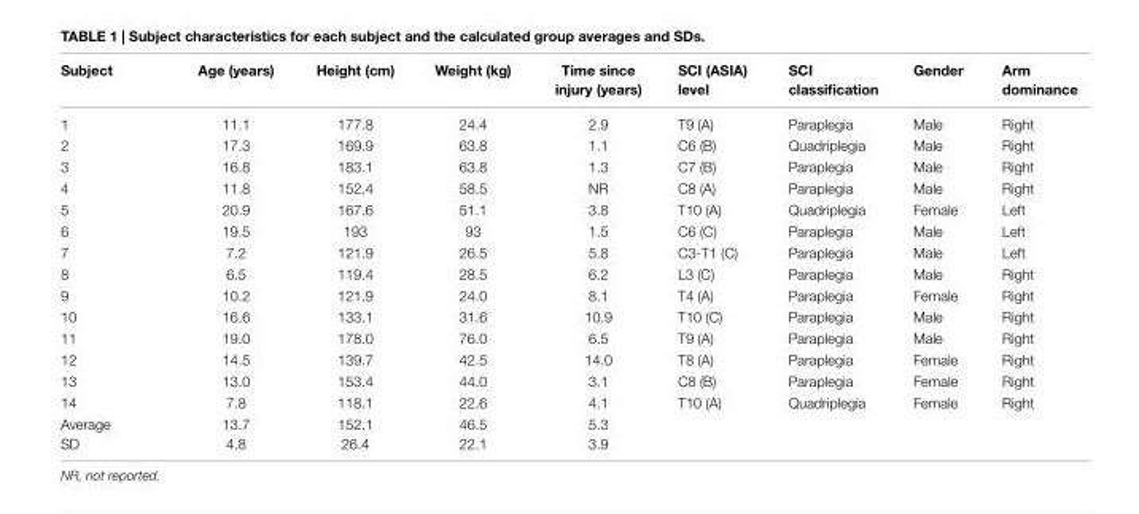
<table><thead><tr><td>subject</td><td>age (years)</td><td>height (cm)</td><td>Weight (kg)</td><td>Time since injury (years)</td><td>sci (asia) level</td><td>sci classification</td><td>gender</td><td>arm dominance</td></tr></thead><tbody><tr><td>1</td><td>11.1</td><td>177.8</td><td>24.4</td><td>2.9</td><td>T9 (A)</td><td>Paraplegia</td><td>Male</td><td>Right</td></tr><tr><td>2</td><td>17.3</td><td>169.9</td><td>63.8</td><td>1.1</td><td>C6 (B)</td><td>Quadriplegia</td><td>Male</td><td>Right</td></tr><tr><td>3</td><td>16.8</td><td>183.1</td><td>63.8</td><td>1.3</td><td>C7 (B)</td><td>Paraplegia</td><td>Male</td><td>Right</td></tr><tr><td>4</td><td>11.8</td><td>152.4</td><td>58.5</td><td>NR</td><td>C8 (A)</td><td>Paraplegia</td><td>Male</td><td>Right</td></tr><tr><td>5</td><td>20.9</td><td>167.6</td><td>51.1</td><td>3.8</td><td>T10 (A)</td><td>Quadriplegia</td><td>Female</td><td>Left</td></tr><tr><td>6</td><td>19.5</td><td>193</td><td>93</td><td>1.5</td><td>C6 (C)</td><td>Paraplegia</td><td>Male</td><td>Left</td></tr><tr><td>7</td><td>7.2</td><td>121.9</td><td>26.5</td><td>5.8</td><td>C3-T1 (C)</td><td>Paraplegia</td><td>Male</td><td>Left</td></tr><tr><td>8</td><td>6.5</td><td>119.4</td><td>28.5</td><td>6.2</td><td>L3 (C)</td><td>Paraplegia</td><td>Male</td><td>Right</td></tr><tr><td>9</td><td>10.2</td><td>121.9</td><td>24.0</td><td>8.1</td><td>T4 (A)</td><td>Paraplegia</td><td>Female</td><td>Right</td></tr><tr><td>10</td><td>16.6</td><td>133.1</td><td>31.6</td><td>10.9</td><td>T10 (C)</td><td>Paraplegia</td><td>Male</td><td>Right</td></tr><tr><td>11</td><td>19.0</td><td>178.0</td><td>76.0</td><td>6.5</td><td>T9 (A)</td><td>Paraplegia</td><td>Male</td><td>Right</td></tr><tr><td>12</td><td>14.5</td><td>139.7</td><td>42.5</td><td>14.0</td><td>T8 (A)</td><td>Paraplegia</td><td>Female</td><td>Right</td></tr><tr><td>13</td><td>13.0</td><td>153.4</td><td>44.0</td><td>3.1</td><td>C8 (B)</td><td>Paraplegia</td><td>Female</td><td>Right</td></tr><tr><td>14</td><td>7.8</td><td>118.1</td><td>22.6</td><td>4.1</td><td>T10 (A)</td><td>Quadriplegia</td><td>Female</td><td>Right</td></tr><tr><td>Average</td><td>13.7</td><td>152.1</td><td>46.5</td><td>5.3</td><td></td><td></td><td></td><td></td></tr><tr><td>SD</td><td>4.8</td><td>26.4</td><td>22.1</td><td>3.9</td><td></td><td></td><td></td><td></td></tr></tbody></table>